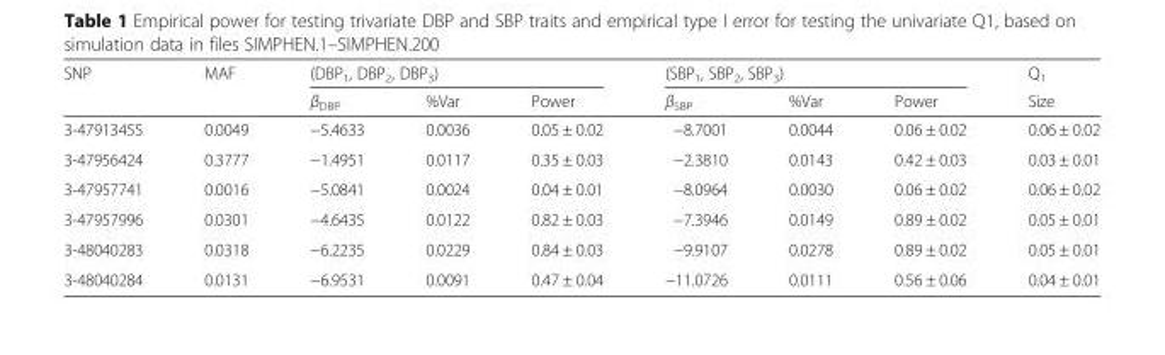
<table><thead><tr><td rowspan="2">SNP</td><td rowspan="2">MAF</td><td colspan="3">(DBP<sub>1</sub>, DBP<sub>2</sub>, DBP<sub>3</sub>)</td><td colspan="3">(SBP<sub>1</sub>, SBP<sub>2</sub>, SBP<sub>3</sub>)</td><td rowspan="2">Q<sub>1</sub> Size</td></tr><tr><td>β<sub>DBP</sub></td><td>%Var</td><td>Power</td><td>β<sub>SBP</sub></td><td>%Var</td><td>Power</td></tr></thead><tbody><tr><td>3-47913455</td><td>0.0049</td><td>−5.4633</td><td>0.0036</td><td>0.05 ± 0.02</td><td>−8.7001</td><td>0.0044</td><td>0.06 ± 0.02</td><td>0.06 ± 0.02</td></tr><tr><td>3-47956424</td><td>0.3777</td><td>−1.4951</td><td>0.0117</td><td>0.35 ± 0.03</td><td>−2.3810</td><td>0.0143</td><td>0.42 ± 0.03</td><td>0.03 ± 0.01</td></tr><tr><td>3-47957741</td><td>0.0016</td><td>−5.0841</td><td>0.0024</td><td>0.04 ± 0.01</td><td>−8.0964</td><td>0.0030</td><td>0.06 ± 0.02</td><td>0.06 ± 0.02</td></tr><tr><td>3-47957996</td><td>0.0301</td><td>−4.6435</td><td>0.0122</td><td>0.82 ± 0.03</td><td>−7.3946</td><td>0.0149</td><td>0.89 ± 0.02</td><td>0.05 ± 0.01</td></tr><tr><td>3-48040283</td><td>0.0318</td><td>−6.2235</td><td>0.0229</td><td>0.84 ± 0.03</td><td>−9.9107</td><td>0.0278</td><td>0.89 ± 0.02</td><td>0.05 ± 0.01</td></tr><tr><td>3-48040284</td><td>0.0131</td><td>−6.9531</td><td>0.0091</td><td>0.47 ± 0.04</td><td>−11.0726</td><td>0.0111</td><td>0.56 ± 0.06</td><td>0.04 ± 0.01</td></tr></tbody></table>